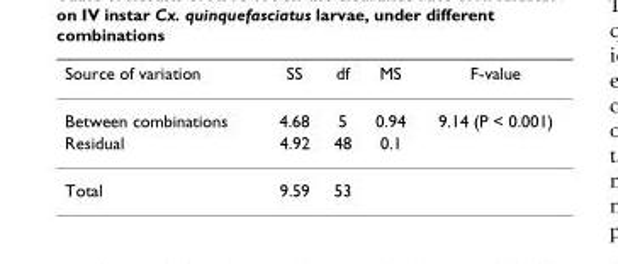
<table><thead><tr><td>Source of variation</td><td>SS</td><td>df</td><td>MS</td><td>F-value</td></tr></thead><tbody><tr><td>Between combinations</td><td>4.68</td><td>5</td><td>0.94</td><td>9.14 (P &lt; 0.001)</td></tr><tr><td>Residual</td><td>4.92</td><td>48</td><td>0.1</td><td></td></tr><tr><td>Total</td><td>9.59</td><td>53</td><td></td><td></td></tr></tbody></table>